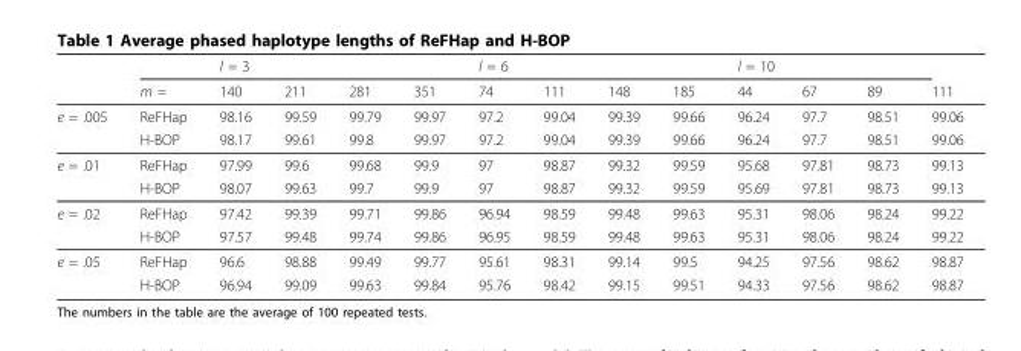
<table><thead><tr><td rowspan="2"></td><td rowspan="2">m =</td><td colspan="4">l = 3</td><td colspan="4">l = 6</td><td colspan="4">l = 10</td></tr><tr><td>140</td><td>211</td><td>281</td><td>351</td><td>74</td><td>111</td><td>148</td><td>185</td><td>44</td><td>67</td><td>89</td><td>111</td></tr></thead><tbody><tr><td rowspan="2">e = .005</td><td>ReFHap</td><td>98.16</td><td>99.59</td><td>99.79</td><td>99.97</td><td>97.2</td><td>99.04</td><td>99.39</td><td>99.66</td><td>96.24</td><td>97.7</td><td>98.51</td><td>99.06</td></tr><tr><td>H-BOP</td><td>98.17</td><td>99.61</td><td>99.8</td><td>99.97</td><td>97.2</td><td>99.04</td><td>99.39</td><td>99.66</td><td>96.24</td><td>97.7</td><td>98.51</td><td>99.06</td></tr><tr><td rowspan="2">e = .01</td><td>ReFHap</td><td>97.99</td><td>99.6</td><td>99.68</td><td>99.9</td><td>97</td><td>98.87</td><td>99.32</td><td>99.59</td><td>95.68</td><td>97.81</td><td>98.73</td><td>99.13</td></tr><tr><td>H-BOP</td><td>98.07</td><td>99.63</td><td>99.7</td><td>99.9</td><td>97</td><td>98.87</td><td>99.32</td><td>99.59</td><td>95.69</td><td>97.81</td><td>98.73</td><td>99.13</td></tr><tr><td rowspan="2">e = .02</td><td>ReFHap</td><td>97.42</td><td>99.39</td><td>99.71</td><td>99.86</td><td>96.94</td><td>98.59</td><td>99.48</td><td>99.63</td><td>95.31</td><td>98.06</td><td>98.24</td><td>99.22</td></tr><tr><td>H-BOP</td><td>97.57</td><td>99.48</td><td>99.74</td><td>99.86</td><td>96.95</td><td>98.59</td><td>99.48</td><td>99.63</td><td>95.31</td><td>98.06</td><td>98.24</td><td>99.22</td></tr><tr><td rowspan="2">e = .05</td><td>ReFHap</td><td>96.6</td><td>98.88</td><td>99.49</td><td>99.77</td><td>95.61</td><td>98.31</td><td>99.14</td><td>99.5</td><td>94.25</td><td>97.56</td><td>98.62</td><td>98.87</td></tr><tr><td>H-BOP</td><td>96.94</td><td>99.09</td><td>99.63</td><td>99.84</td><td>95.76</td><td>98.42</td><td>99.15</td><td>99.51</td><td>94.33</td><td>97.56</td><td>98.62</td><td>98.87</td></tr></tbody></table>